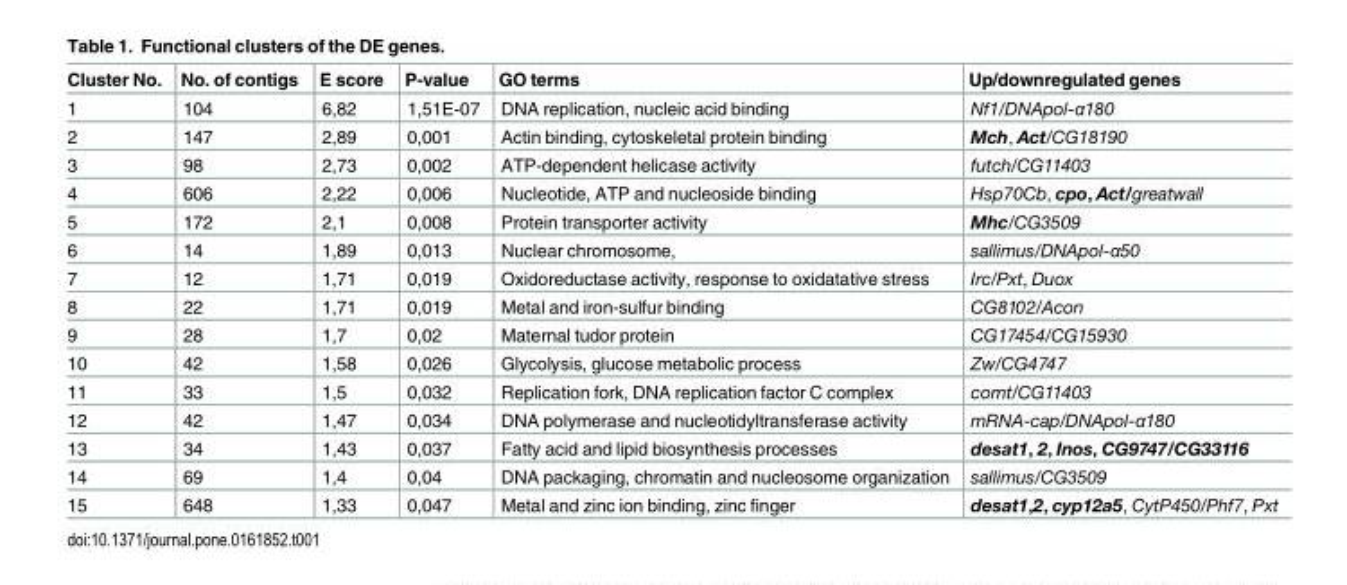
<table><thead><tr><td>Cluster No.</td><td>No. of contigs</td><td>E score</td><td>P-value</td><td>GO terms</td><td>Up/downregulated genes</td></tr></thead><tbody><tr><td>1</td><td>104</td><td>6,82</td><td>1,51E-07</td><td>DNA replication, nucleic acid binding</td><td>Nf1/DNApol-α180</td></tr><tr><td>2</td><td>147</td><td>2,89</td><td>0,001</td><td>Actin binding, cytoskeletal protein binding</td><td>Mch, Act/CG18190</td></tr><tr><td>3</td><td>98</td><td>2,73</td><td>0,002</td><td>ATP-dependent helicase activity</td><td>futch/CG11403</td></tr><tr><td>4</td><td>606</td><td>2,22</td><td>0,006</td><td>Nucleotide, ATP and nucleoside binding</td><td>Hsp70Cb, cpo, Act/greatwall</td></tr><tr><td>5</td><td>172</td><td>2,1</td><td>0,008</td><td>Protein transporter activity</td><td>Mhc/CG3509</td></tr><tr><td>6</td><td>14</td><td>1,89</td><td>0,013</td><td>Nuclear chromosome,</td><td>sallimus/DNApol-α50</td></tr><tr><td>7</td><td>12</td><td>1,71</td><td>0,019</td><td>Oxidoreductase activity, response to oxidatative stress</td><td>Irc/Pxt, Duox</td></tr><tr><td>8</td><td>22</td><td>1,71</td><td>0,019</td><td>Metal and iron-sulfur binding</td><td>CG8102/Acon</td></tr><tr><td>9</td><td>28</td><td>1,7</td><td>0,02</td><td>Maternal tudor protein</td><td>CG17454/CG15930</td></tr><tr><td>10</td><td>42</td><td>1,58</td><td>0,026</td><td>Glycolysis, glucose metabolic process</td><td>Zw/CG4747</td></tr><tr><td>11</td><td>33</td><td>1,5</td><td>0,032</td><td>Replication fork, DNA replication factor C complex</td><td>comt/CG11403</td></tr><tr><td>12</td><td>42</td><td>1,47</td><td>0,034</td><td>DNA polymerase and nucleotidyltransferase activity</td><td>mRNA-cap/DNApol-α180</td></tr><tr><td>13</td><td>34</td><td>1,43</td><td>0,037</td><td>Fatty acid and lipid biosynthesis processes</td><td>desat1, 2, Inos, CG9747/CG33116</td></tr><tr><td>14</td><td>69</td><td>1,4</td><td>0,04</td><td>DNA packaging, chromatin and nucleosome organization</td><td>sallimus/CG3509</td></tr><tr><td>15</td><td>648</td><td>1,33</td><td>0,047</td><td>Metal and zinc ion binding, zinc finger</td><td>desat1,2, cyp12a5, CytP450/Phf7, Pxt</td></tr></tbody></table>